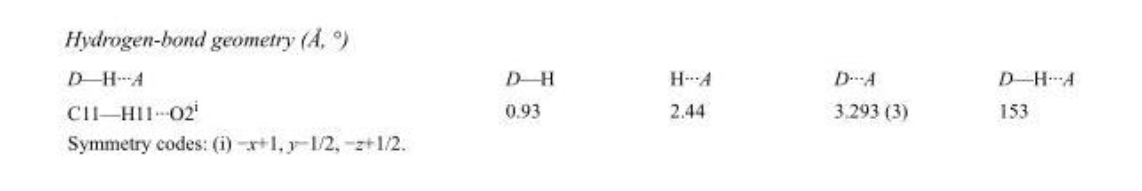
<table><tbody><tr><td>D—H···A</td><td>D—H</td><td>H···A</td><td>D···A</td><td>D—H···A</td></tr><tr><td>C11—H11···O2<sup>i</sup></td><td>0.93</td><td>2.44</td><td>3.293 (3)</td><td>153</td></tr></tbody></table>